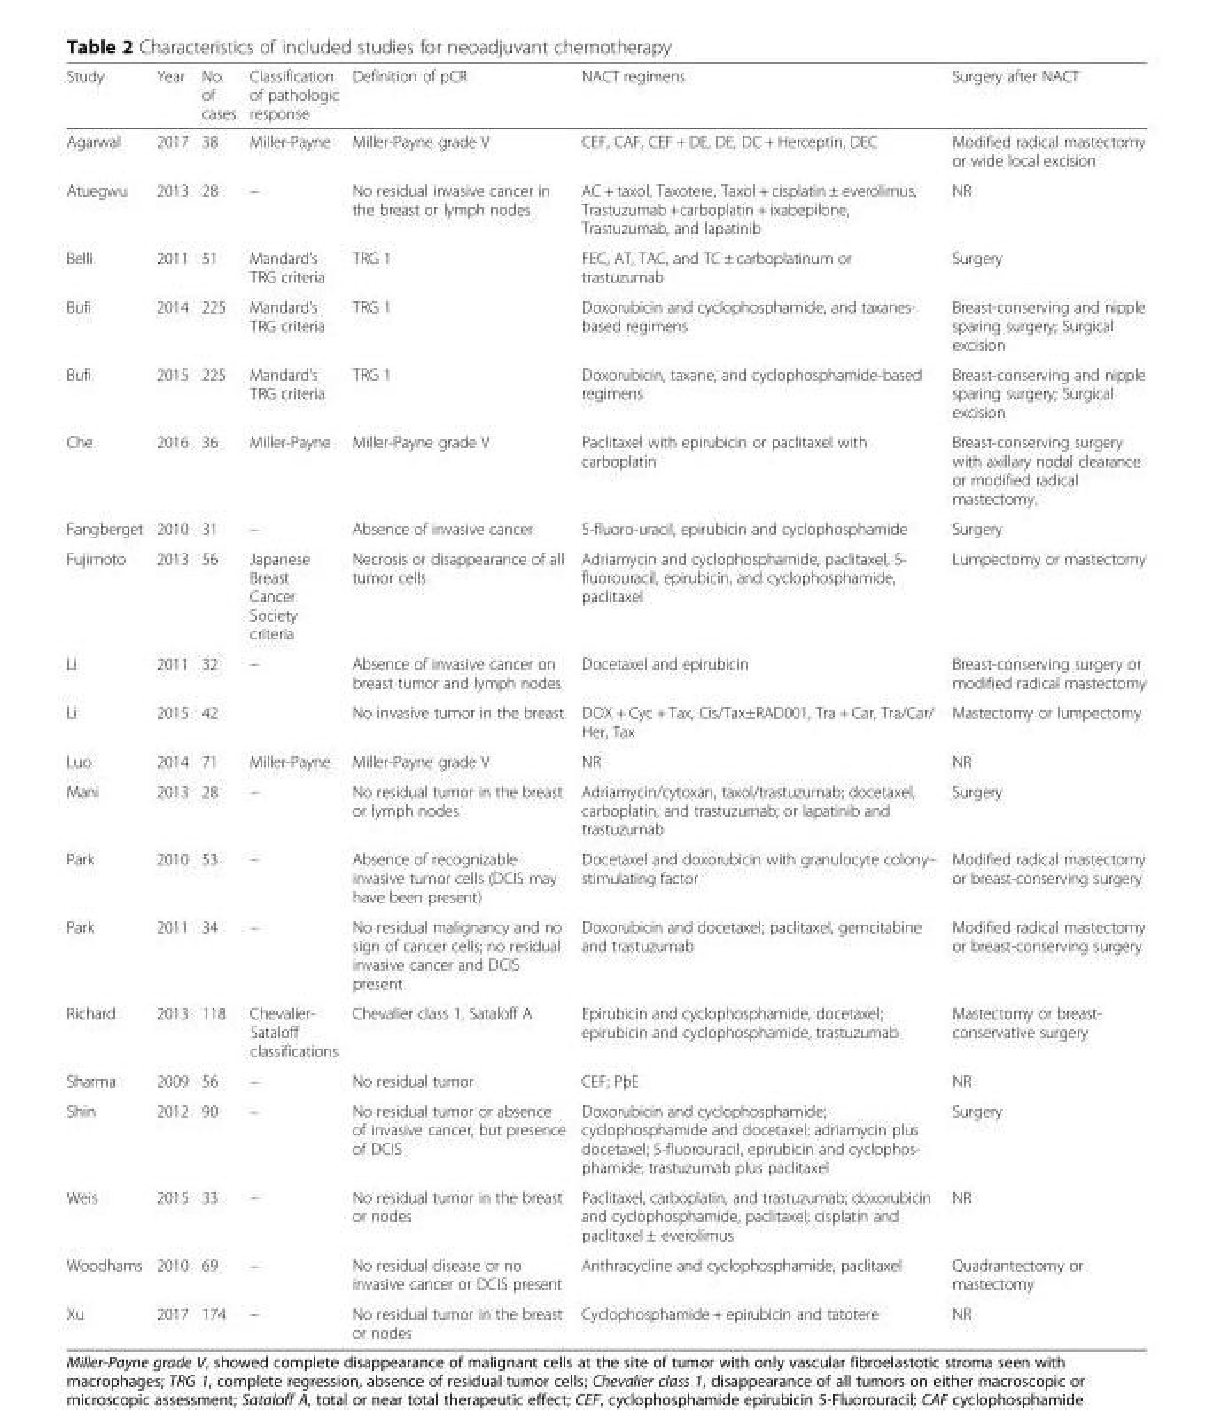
<table><thead><tr><td>Study</td><td>Year</td><td>No. of cases</td><td>Classification of pathologic response</td><td>Definition of pCR</td><td>NACT regimens</td><td>Surgery after NACT</td></tr></thead><tbody><tr><td>Agarwal</td><td>2017</td><td>38</td><td>Miller-Payne</td><td>Miller-Payne grade V</td><td>CEF, CAF, CEF + DE, DE, DC + Herceptin, DEC</td><td>Modified radical mastectomy or wide local excision</td></tr><tr><td>Atuegwu</td><td>2013</td><td>28</td><td>–</td><td>No residual invasive cancer in the breast or lymph nodes</td><td>AC + taxol, Taxotere, Taxol + cisplatin ± everolimus, Trastuzumab +carboplatin + ixabepilone, Trastuzumab, and lapatinib</td><td>NR</td></tr><tr><td>Belli</td><td>2011</td><td>51</td><td>Mandard’s TRG criteria</td><td>TRG 1</td><td>FEC, AT, TAC, and TC ± carboplatinum or trastuzumab</td><td>Surgery</td></tr><tr><td>Bufi</td><td>2014</td><td>225</td><td>Mandard’s TRG criteria</td><td>TRG 1</td><td>Doxorubicin and cyclophosphamide, and taxanes- based regimens</td><td>Breast-conserving and nipple sparing surgery; Surgical excision</td></tr><tr><td>Bufi</td><td>2015</td><td>225</td><td>Mandard’s TRG criteria</td><td>TRG 1</td><td>Doxorubicin, taxane, and cyclophosphamide-based regimens</td><td>Breast-conserving and nipple sparing surgery; Surgical excision</td></tr><tr><td>Che</td><td>2016</td><td>36</td><td>Miller-Payne</td><td>Miller-Payne grade V</td><td>Paclitaxel with epirubicin or paclitaxel with carboplatin</td><td>Breast-conserving surgery with axillary nodal clearance or modified radical mastectomy.</td></tr><tr><td>Fangberget</td><td>2010</td><td>31</td><td>–</td><td>Absence of invasive cancer</td><td>5-fluoro-uracil, epirubicin and cyclophosphamide</td><td>Surgery</td></tr><tr><td>Fujimoto</td><td>2013</td><td>56</td><td>Japanese Breast Cancer Society criteria</td><td>Necrosis or disappearance of all tumor cells</td><td>Adriamycin and cyclophosphamide, paclitaxel, 5- fluorouracil, epirubicin, and cyclophosphamide, paclitaxel</td><td>Lumpectomy or mastectomy</td></tr><tr><td>Li</td><td>2011</td><td>32</td><td>–</td><td>Absence of invasive cancer on breast tumor and lymph nodes</td><td>Docetaxel and epirubicin</td><td>Breast-conserving surgery or modified radical mastectomy</td></tr><tr><td>Li</td><td>2015</td><td>42</td><td></td><td>No invasive tumor in the breast</td><td>DOX + Cyc + Tax, Cis/Tax±RAD001, Tra + Car, Tra/Car/ Her, Tax</td><td>Mastectomy or lumpectomy</td></tr><tr><td>Luo</td><td>2014</td><td>71</td><td>Miller-Payne</td><td>Miller-Payne grade V</td><td>NR</td><td>NR</td></tr><tr><td>Mani</td><td>2013</td><td>28</td><td>–</td><td>No residual tumor in the breast or lymph nodes</td><td>Adriamycin/cytoxan, taxol/trastuzumab; docetaxel, carboplatin, and trastuzumab; or lapatinib and trastuzumab</td><td>Surgery</td></tr><tr><td>Park</td><td>2010</td><td>53</td><td>–</td><td>Absence of recognizable invasive tumor cells (DCIS may have been present)</td><td>Docetaxel and doxorubicin with granulocyte colony– stimulating factor</td><td>Modified radical mastectomy or breast-conserving surgery</td></tr><tr><td>Park</td><td>2011</td><td>34</td><td>–</td><td>No residual malignancy and no sign of cancer cells; no residual invasive cancer and DCIS present</td><td>Doxorubicin and docetaxel; paclitaxel, gemcitabine and trastuzumab</td><td>Modified radical mastectomy or breast-conserving surgery</td></tr><tr><td>Richard</td><td>2013</td><td>118</td><td>Chevalier- Sataloff classifications</td><td>Chevalier class 1, Sataloff A</td><td>Epirubicin and cyclophosphamide, docetaxel; epirubicin and cyclophosphamide, trastuzumab</td><td>Mastectomy or breast- conservative surgery</td></tr><tr><td>Sharma</td><td>2009</td><td>56</td><td>–</td><td>No residual tumor</td><td>CEF; PþE</td><td>NR</td></tr><tr><td>Shin</td><td>2012</td><td>90</td><td>–</td><td>No residual tumor or absence of invasive cancer, but presence of DCIS</td><td>Doxorubicin and cyclophosphamide; cyclophosphamide and docetaxel; adriamycin plus docetaxel; 5-fluorouracil, epirubicin and cyclophos- phamide; trastuzumab plus paclitaxel</td><td>Surgery</td></tr><tr><td>Weis</td><td>2015</td><td>33</td><td>–</td><td>No residual tumor in the breast or nodes</td><td>Paclitaxel, carboplatin, and trastuzumab; doxorubicin and cyclophosphamide, paclitaxel; cisplatin and paclitaxel ± everolimus</td><td>NR</td></tr><tr><td>Woodhams</td><td>2010</td><td>69</td><td>–</td><td>No residual disease or no invasive cancer or DCIS present</td><td>Anthracycline and cyclophosphamide, paclitaxel</td><td>Quadrantectomy or mastectomy</td></tr><tr><td>Xu</td><td>2017</td><td>174</td><td>–</td><td>No residual tumor in the breast or nodes</td><td>Cyclophosphamide + epirubicin and tatotere</td><td>NR</td></tr></tbody></table>